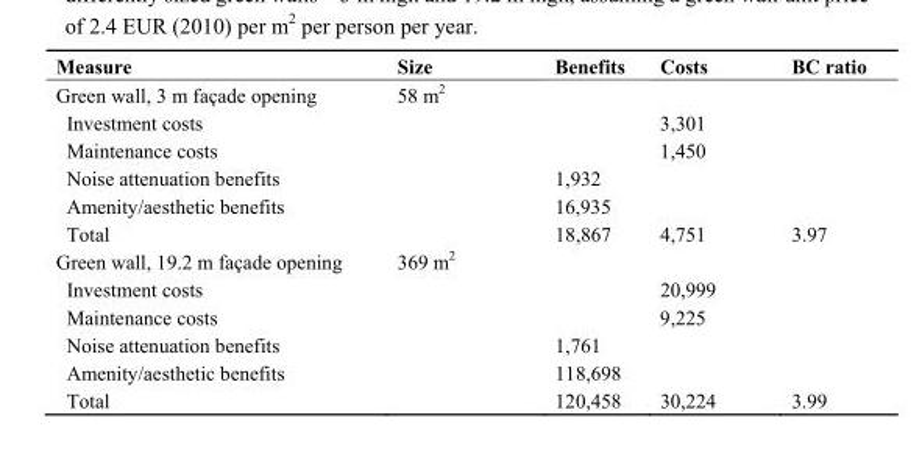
<table><thead><tr><td>Measure</td><td>Size</td><td>Benefits</td><td>Costs</td><td>BC ratio</td></tr></thead><tbody><tr><td>Green wall, 3 m façade opening</td><td>58 m<sup>2</sup></td><td></td><td></td><td></td></tr><tr><td>Investment costs</td><td></td><td></td><td>3,301</td><td></td></tr><tr><td>Maintenance costs</td><td></td><td></td><td>1,450</td><td></td></tr><tr><td>Noise attenuation benefits</td><td></td><td>1,932</td><td></td><td></td></tr><tr><td>Amenity/aesthetic benefits</td><td></td><td>16,935</td><td></td><td></td></tr><tr><td>Total</td><td></td><td>18,867</td><td>4,751</td><td>3.97</td></tr><tr><td>Green wall, 19.2 m façade opening</td><td>369 m<sup>2</sup></td><td></td><td></td><td></td></tr><tr><td>Investment costs</td><td></td><td></td><td>20,999</td><td></td></tr><tr><td>Maintenance costs</td><td></td><td></td><td>9,225</td><td></td></tr><tr><td>Noise attenuation benefits</td><td></td><td>1,761</td><td></td><td></td></tr><tr><td>Amenity/aesthetic benefits</td><td></td><td>118,698</td><td></td><td></td></tr><tr><td>Total</td><td></td><td>120,458</td><td>30,224</td><td>3.99</td></tr></tbody></table>